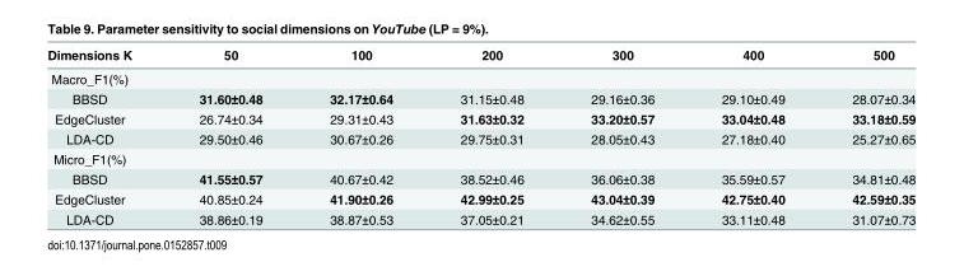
<table><thead><tr><td>Dimensions K</td><td>50</td><td>100</td><td>200</td><td>300</td><td>400</td><td>500</td></tr></thead><tbody><tr><td colspan="7">Macro_F1(%)</td></tr><tr><td>BBSD</td><td>31.60±0.48</td><td>32.17±0.64</td><td>31.15±0.48</td><td>29.16±0.36</td><td>29.10±0.49</td><td>28.07±0.34</td></tr><tr><td>EdgeCluster</td><td>26.74±0.34</td><td>29.31±0.43</td><td>31.63±0.32</td><td>33.20±0.57</td><td>33.04±0.48</td><td>33.18±0.59</td></tr><tr><td>LDA-CD</td><td>29.50±0.46</td><td>30.67±0.26</td><td>29.75±0.31</td><td>28.05±0.43</td><td>27.18±0.40</td><td>25.27±0.65</td></tr><tr><td colspan="7">Micro_F1(%)</td></tr><tr><td>BBSD</td><td>41.55±0.57</td><td>40.67±0.42</td><td>38.52±0.46</td><td>36.06±0.38</td><td>35.59±0.57</td><td>34.81±0.48</td></tr><tr><td>EdgeCluster</td><td>40.85±0.24</td><td>41.90±0.26</td><td>42.99±0.25</td><td>43.04±0.39</td><td>42.75±0.40</td><td>42.59±0.35</td></tr><tr><td>LDA-CD</td><td>38.86±0.19</td><td>38.87±0.53</td><td>37.05±0.21</td><td>34.62±0.55</td><td>33.11±0.48</td><td>31.07±0.73</td></tr></tbody></table>